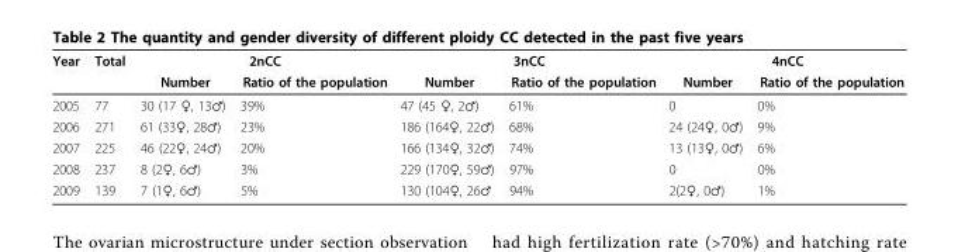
<table><thead><tr><td rowspan="2">Year</td><td rowspan="2">Total</td><td colspan="2">2nCC</td><td colspan="2">3nCC</td><td colspan="2">4nCC</td></tr><tr><td>Number</td><td>Ratio of the population</td><td>Number</td><td>Ratio of the population</td><td>Number</td><td>Ratio of the population</td></tr></thead><tbody><tr><td>2005</td><td>77</td><td>30 (17 ♀, 13♂)</td><td>39%</td><td>47 (45 ♀, 2♂)</td><td>61%</td><td>0</td><td>0%</td></tr><tr><td>2006</td><td>271</td><td>61 (33♀, 28♂)</td><td>23%</td><td>186 (164♀, 22♂)</td><td>68%</td><td>24 (24♀, 0♂)</td><td>9%</td></tr><tr><td>2007</td><td>225</td><td>46 (22♀, 24♂)</td><td>20%</td><td>166 (134♀, 32♂)</td><td>74%</td><td>13 (13♀, 0♂)</td><td>6%</td></tr><tr><td>2008</td><td>237</td><td>8 (2♀, 6♂)</td><td>3%</td><td>229 (170♀, 59♂)</td><td>97%</td><td>0</td><td>0%</td></tr><tr><td>2009</td><td>139</td><td>7 (1♀, 6♂)</td><td>5%</td><td>130 (104♀, 26♂</td><td>94%</td><td>2(2♀, 0♂)</td><td>1%</td></tr></tbody></table>